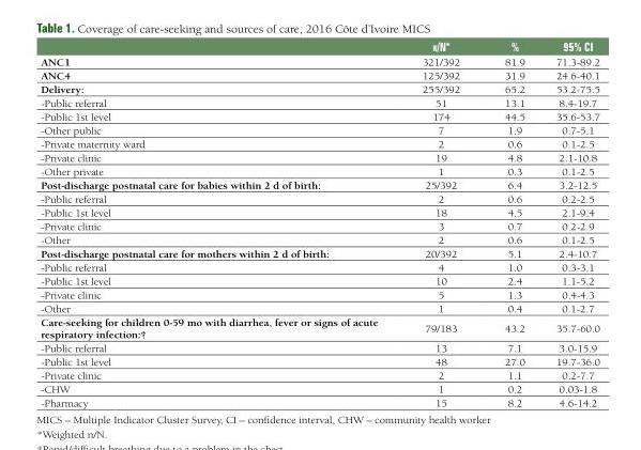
<table><thead><tr><td></td><td>n/n*</td><td>%</td><td>95% CI</td></tr></thead><tbody><tr><td>ANC1</td><td>321/392</td><td>81.9</td><td>71.3-89.2</td></tr><tr><td>ANC4</td><td>125/392</td><td>31.9</td><td>24.6-40.1</td></tr><tr><td>Delivery:</td><td>255/392</td><td>65.2</td><td>53.2-75.5</td></tr><tr><td>-Public referral</td><td>51</td><td>13.1</td><td>8.4-19.7</td></tr><tr><td>-Public 1st level</td><td>174</td><td>44.5</td><td>35.6-53.7</td></tr><tr><td>-Other public</td><td>7</td><td>1.9</td><td>0.7-5.1</td></tr><tr><td>-Private maternity ward</td><td>2</td><td>0.6</td><td>0.1-2.5</td></tr><tr><td>-Private clinic</td><td>19</td><td>4.8</td><td>2.1-10.8</td></tr><tr><td>-Other private</td><td>1</td><td>0.3</td><td>0.1-2.5</td></tr><tr><td>Post-discharge postnatal care for babies within 2 d of birth:</td><td>25/392</td><td>6.4</td><td>3.2-12.5</td></tr><tr><td>-Public referral</td><td>2</td><td>0.6</td><td>0.2-2.5</td></tr><tr><td>-Public 1st level</td><td>18</td><td>4.5</td><td>2.1-9.4</td></tr><tr><td>-Private clinic</td><td>3</td><td>0.7</td><td>0.2-2.9</td></tr><tr><td>-Other</td><td>2</td><td>0.6</td><td>0.1-2.5</td></tr><tr><td>Post-discharge postnatal care for mothers within 2 d of birth:</td><td>20/392</td><td>5.1</td><td>2.4-10.7</td></tr><tr><td>-Public referral</td><td>4</td><td>1.0</td><td>0.3-3.1</td></tr><tr><td>-Public 1st level</td><td>10</td><td>2.4</td><td>1.1-5.2</td></tr><tr><td>-Private clinic</td><td>5</td><td>1.3</td><td>0.4-4.3</td></tr><tr><td>-Other</td><td>1</td><td>0.4</td><td>0.1-2.7</td></tr><tr><td>Care-seeking for children 0-59 mo with diarrhea, fever or signs of acute respiratory infection:†</td><td>79/183</td><td>43.2</td><td>35.7-60.0</td></tr><tr><td>-Public referral</td><td>13</td><td>7.1</td><td>3.0-15.9</td></tr><tr><td>-Public 1st level</td><td>48</td><td>27.0</td><td>19.7-36.0</td></tr><tr><td>-Private clinic</td><td>2</td><td>1.1</td><td>0.2-7.7</td></tr><tr><td>-CHW</td><td>1</td><td>0.2</td><td>0.03-1.8</td></tr><tr><td>-Pharmacy</td><td>15</td><td>8.2</td><td>4.6-14.2</td></tr></tbody></table>